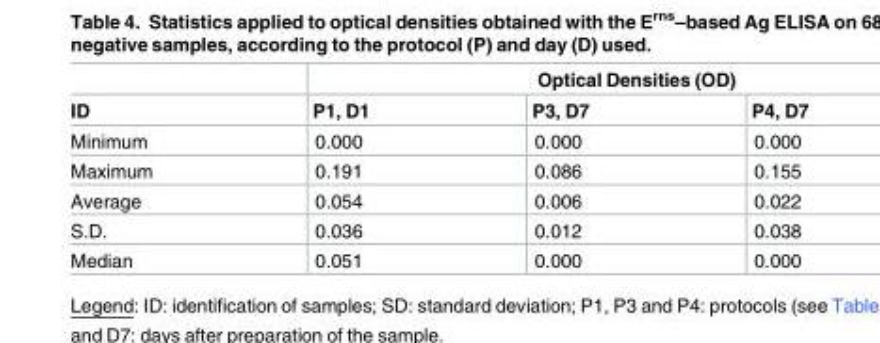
<table><thead><tr><td rowspan="2">ID</td><td colspan="3">Optical Densities (OD)</td></tr><tr><td>P1, D1</td><td>P3, D7</td><td>P4, D7</td></tr></thead><tbody><tr><td>Minimum</td><td>0.000</td><td>0.000</td><td>0.000</td></tr><tr><td>Maximum</td><td>0.191</td><td>0.086</td><td>0.155</td></tr><tr><td>Average</td><td>0.054</td><td>0.006</td><td>0.022</td></tr><tr><td>S.D.</td><td>0.036</td><td>0.012</td><td>0.038</td></tr><tr><td>Median</td><td>0.051</td><td>0.000</td><td>0.000</td></tr></tbody></table>